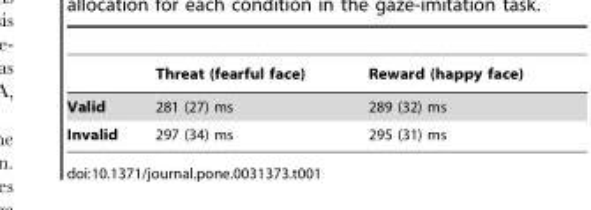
<table><thead><tr><td></td><td>Threat (fearful face)</td><td>Reward (happy face)</td></tr></thead><tbody><tr><td>Valid</td><td>281 (27) ms</td><td>289 (32) ms</td></tr><tr><td>Invalid</td><td>297 (34) ms</td><td>295 (31) ms</td></tr></tbody></table>